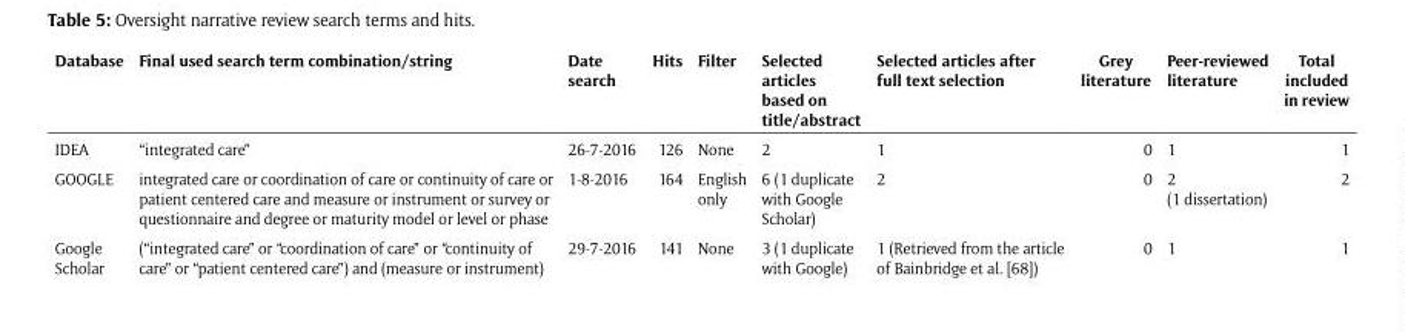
<table><thead><tr><td>Database</td><td>Final used search term combination/string</td><td>Date search</td><td>Hits</td><td>Filter</td><td>Selected articles based on title/abstract</td><td>Selected articles after full text selection</td><td>Grey literature</td><td>Peer-reviewed literature</td><td>Total included in review</td></tr></thead><tbody><tr><td>IDEA</td><td>“integrated care”</td><td>26-7-2016</td><td>126</td><td>None</td><td>2</td><td>1</td><td>0</td><td>1</td><td>1</td></tr><tr><td>GOOGLE</td><td>integrated care or coordination of care or continuity of care or patient centered care and measure or instrument or survey or questionnaire and degree or maturity model or level or phase</td><td>1-8-2016</td><td>164</td><td>English only</td><td>6 (1 duplicate with Google Scholar)</td><td>2</td><td>0</td><td>2 (1 dissertation)</td><td>2</td></tr><tr><td>Google Scholar</td><td>(“integrated care” or “coordination of care” or “continuity of care” or “patient centered care”) and (measure or instrument)</td><td>29-7-2016</td><td>141</td><td>None</td><td>3 (1 duplicate with Google)</td><td>1 (Retrieved from the article of Bainbridge et al. [68])</td><td>0</td><td>1</td><td>1</td></tr></tbody></table>